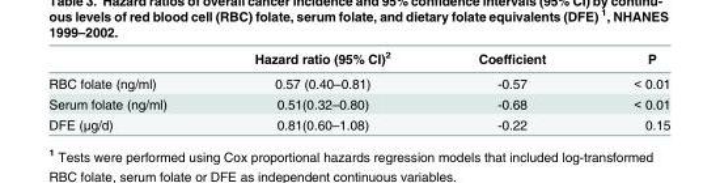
<table><thead><tr><td></td><td>Hazard ratio (95% CI)<sup>2</sup></td><td>Coefficient</td><td>P</td></tr></thead><tbody><tr><td>RBC folate (ng/ml)</td><td>0.57 (0.40–0.81)</td><td>-0.57</td><td>&lt; 0.01</td></tr><tr><td>Serum folate (ng/ml)</td><td>0.51(0.32–0.80)</td><td>-0.68</td><td>&lt; 0.01</td></tr><tr><td>DFE (μg/d)</td><td>0.81(0.60–1.08)</td><td>-0.22</td><td>0.15</td></tr></tbody></table>